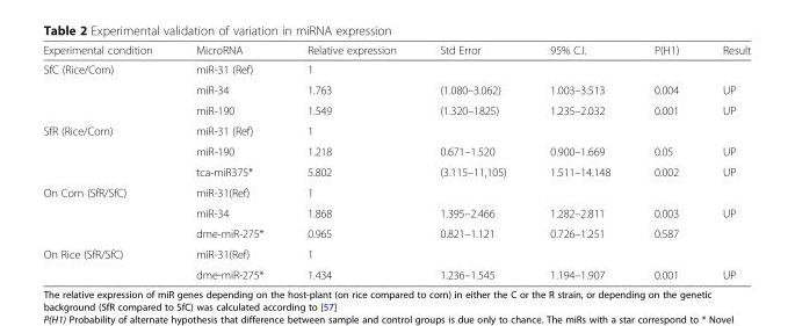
<table><thead><tr><td>Experimental condition</td><td>MicroRNA</td><td>Relative expression</td><td>Std Error</td><td>95% C.I.</td><td>P(H1)</td><td>Result</td></tr></thead><tbody><tr><td rowspan="3">SfC (Rice/Corn)</td><td>miR-31 (Ref)</td><td>1</td><td></td><td></td><td></td><td></td></tr><tr><td>miR-34</td><td>1.763</td><td>(1.080–3.062)</td><td>1.003–3.513</td><td>0.004</td><td>UP</td></tr><tr><td>miR-190</td><td>1.549</td><td>(1.320–1825)</td><td>1.235–2.032</td><td>0.001</td><td>UP</td></tr><tr><td rowspan="3">SfR (Rice/Corn)</td><td>miR-31 (Ref)</td><td>1</td><td></td><td></td><td></td><td></td></tr><tr><td>miR-190</td><td>1.218</td><td>0.671–1.520</td><td>0.900–1.669</td><td>0.05</td><td>UP</td></tr><tr><td>tca-miR375*</td><td>5.802</td><td>(3.115–11,105)</td><td>1.511–14.148</td><td>0.002</td><td>UP</td></tr><tr><td rowspan="3">On Corn (SfR/SfC)</td><td>miR-31(Ref)</td><td>1</td><td></td><td></td><td></td><td></td></tr><tr><td>miR-34</td><td>1.868</td><td>1.395–2.466</td><td>1.282–2.811</td><td>0.003</td><td>UP</td></tr><tr><td>dme-miR-275*</td><td>0.965</td><td>0.821–1.121</td><td>0.726–1.251</td><td>0.587</td><td></td></tr><tr><td rowspan="2">On Rice (SfR/SfC)</td><td>miR-31(Ref)</td><td>1</td><td></td><td></td><td></td><td></td></tr><tr><td>dme-miR-275*</td><td>1.434</td><td>1.236–1.545</td><td>1.194–1.907</td><td>0.001</td><td>UP</td></tr></tbody></table>